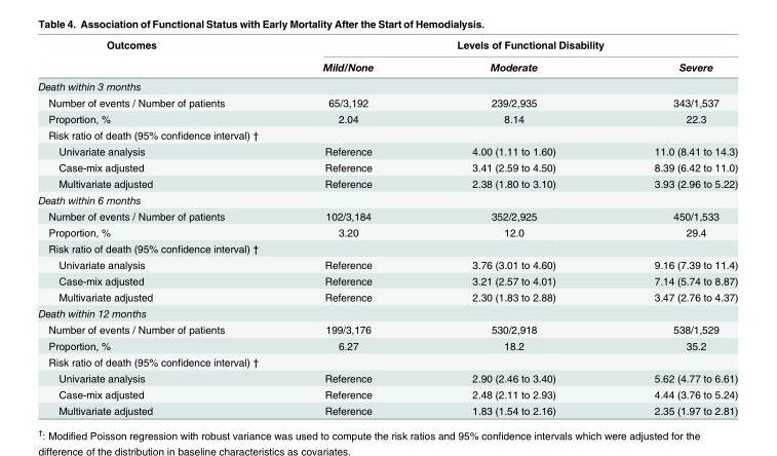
<table><thead><tr><td rowspan="2">Outcomes</td><td colspan="3">Levels of Functional Disability</td></tr><tr><td>Mild/None</td><td>Moderate</td><td>Severe</td></tr></thead><tbody><tr><td colspan="4">Death within 3 months</td></tr><tr><td>Number of events / Number of patients</td><td>65/3,192</td><td>239/2,935</td><td>343/1,537</td></tr><tr><td>Proportion, %</td><td>2.04</td><td>8.14</td><td>22.3</td></tr><tr><td colspan="4">Risk ratio of death (95% confidence interval) †</td></tr><tr><td>Univariate analysis</td><td>Reference</td><td>4.00 (1.11 to 1.60)</td><td>11.0 (8.41 to 14.3)</td></tr><tr><td>Case-mix adjusted</td><td>Reference</td><td>3.41 (2.59 to 4.50)</td><td>8.39 (6.42 to 11.0)</td></tr><tr><td>Multivariate adjusted</td><td>Reference</td><td>2.38 (1.80 to 3.10)</td><td>3.93 (2.96 to 5.22)</td></tr><tr><td colspan="4">Death within 6 months</td></tr><tr><td>Number of events / Number of patients</td><td>102/3,184</td><td>352/2,925</td><td>450/1,533</td></tr><tr><td>Proportion, %</td><td>3.20</td><td>12.0</td><td>29.4</td></tr><tr><td colspan="4">Risk ratio of death (95% confidence interval) †</td></tr><tr><td>Univariate analysis</td><td>Reference</td><td>3.76 (3.01 to 4.60)</td><td>9.16 (7.39 to 11.4)</td></tr><tr><td>Case-mix adjusted</td><td>Reference</td><td>3.21 (2.57 to 4.01)</td><td>7.14 (5.74 to 8.87)</td></tr><tr><td>Multivariate adjusted</td><td>Reference</td><td>2.30 (1.83 to 2.88)</td><td>3.47 (2.76 to 4.37)</td></tr><tr><td colspan="4">Death within 12 months</td></tr><tr><td>Number of events / Number of patients</td><td>199/3,176</td><td>530/2,918</td><td>538/1,529</td></tr><tr><td>Proportion, %</td><td>6.27</td><td>18.2</td><td>35.2</td></tr><tr><td colspan="4">Risk ratio of death (95% confidence interval) †</td></tr><tr><td>Univariate analysis</td><td>Reference</td><td>2.90 (2.46 to 3.40)</td><td>5.62 (4.77 to 6.61)</td></tr><tr><td>Case-mix adjusted</td><td>Reference</td><td>2.48 (2.11 to 2.93)</td><td>4.44 (3.76 to 5.24)</td></tr><tr><td>Multivariate adjusted</td><td>Reference</td><td>1.83 (1.54 to 2.16)</td><td>2.35 (1.97 to 2.81)</td></tr></tbody></table>